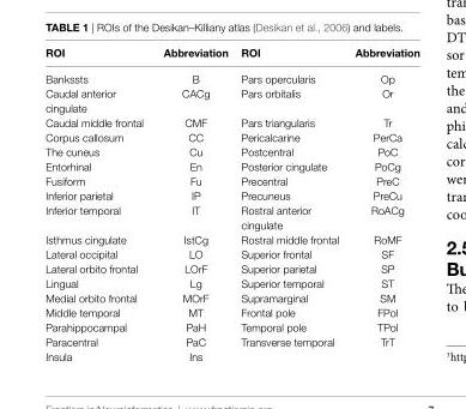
<table><thead><tr><td>rOi</td><td>abbreviation</td><td>rOi</td><td>abbreviation</td></tr></thead><tbody><tr><td>Bankssts</td><td>B</td><td>Pars opercularis</td><td>Op</td></tr><tr><td>Caudal anterior cingulate</td><td>CACg</td><td>Pars orbitalis</td><td>Or</td></tr><tr><td>Caudal middle frontal</td><td>CMF</td><td>Pars triangularis</td><td>Tr</td></tr><tr><td>Corpus callosum</td><td>CC</td><td>Pericalcarine</td><td>PerCa</td></tr><tr><td>The cuneus</td><td>Cu</td><td>Postcentral</td><td>PoC</td></tr><tr><td>Entorhinal</td><td>En</td><td>Posterior cingulate</td><td>PoCg</td></tr><tr><td>Fusiform</td><td>Fu</td><td>Precentral</td><td>PreC</td></tr><tr><td>Inferior parietal</td><td>IP</td><td>Precuneus</td><td>PreCu</td></tr><tr><td>Inferior temporal</td><td>IT</td><td>Rostral anterior cingulate</td><td>RoACg</td></tr><tr><td>Isthmus cingulate</td><td>IstCg</td><td>Rostral middle frontal</td><td>RoMF</td></tr><tr><td>Lateral occipital</td><td>LO</td><td>Superior frontal</td><td>SF</td></tr><tr><td>Lateral orbito frontal</td><td>LOrF</td><td>Superior parietal</td><td>SP</td></tr><tr><td>Lingual</td><td>Lg</td><td>Superior temporal</td><td>ST</td></tr><tr><td>Medial orbito frontal</td><td>MOrF</td><td>Supramarginal</td><td>SM</td></tr><tr><td>Middle temporal</td><td>MT</td><td>Frontal pole</td><td>FPol</td></tr><tr><td>Parahippocampal</td><td>PaH</td><td>Temporal pole</td><td>TPol</td></tr><tr><td>Paracentral</td><td>PaC</td><td>Transverse temporal</td><td>TrT</td></tr><tr><td>Insula</td><td>Ins</td><td></td><td></td></tr></tbody></table>